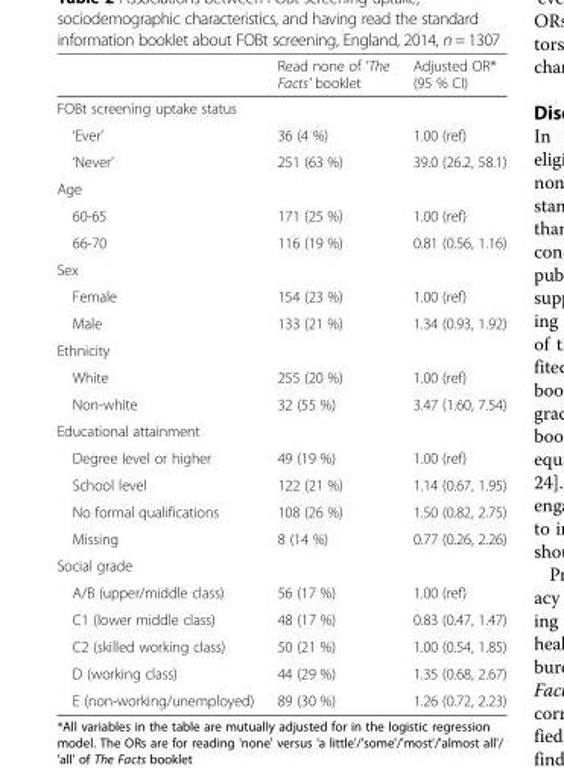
<table><thead><tr><td></td><td>Read none of &#x27;The Facts&#x27; booklet</td><td>Adjusted OR* (95 % CI)</td></tr></thead><tbody><tr><td colspan="3">FOBt screening uptake status</td></tr><tr><td>‘Ever’</td><td>36 (4 %)</td><td>1.00 (ref)</td></tr><tr><td>‘Never’</td><td>251 (63 %)</td><td>39.0 (26.2, 58.1)</td></tr><tr><td colspan="3">Age</td></tr><tr><td>60-65</td><td>171 (25 %)</td><td>1.00 (ref)</td></tr><tr><td>66-70</td><td>116 (19 %)</td><td>0.81 (0.56, 1.16)</td></tr><tr><td colspan="3">Sex</td></tr><tr><td>Female</td><td>154 (23 %)</td><td>1.00 (ref)</td></tr><tr><td>Male</td><td>133 (21 %)</td><td>1.34 (0.93, 1.92)</td></tr><tr><td colspan="3">Ethnicity</td></tr><tr><td>White</td><td>255 (20 %)</td><td>1.00 (ref)</td></tr><tr><td>Non-white</td><td>32 (55 %)</td><td>3.47 (1.60, 7.54)</td></tr><tr><td colspan="3">Educational attainment</td></tr><tr><td>Degree level or higher</td><td>49 (19 %)</td><td>1.00 (ref)</td></tr><tr><td>School level</td><td>122 (21 %)</td><td>1.14 (0.67, 1.95)</td></tr><tr><td>No formal qualifications</td><td>108 (26 %)</td><td>1.50 (0.82, 2.75)</td></tr><tr><td>Missing</td><td>8 (14 %)</td><td>0.77 (0.26, 2.26)</td></tr><tr><td colspan="3">Social grade</td></tr><tr><td>A/B (upper/middle class)</td><td>56 (17 %)</td><td>1.00 (ref)</td></tr><tr><td>C1 (lower middle class)</td><td>48 (17 %)</td><td>0.83 (0.47, 1.47)</td></tr><tr><td>C2 (skilled working class)</td><td>50 (21 %)</td><td>1.00 (0.54, 1.85)</td></tr><tr><td>D (working class)</td><td>44 (29 %)</td><td>1.35 (0.68, 2.67)</td></tr><tr><td>E (non-working/unemployed)</td><td>89 (30 %)</td><td>1.26 (0.72, 2.23)</td></tr></tbody></table>